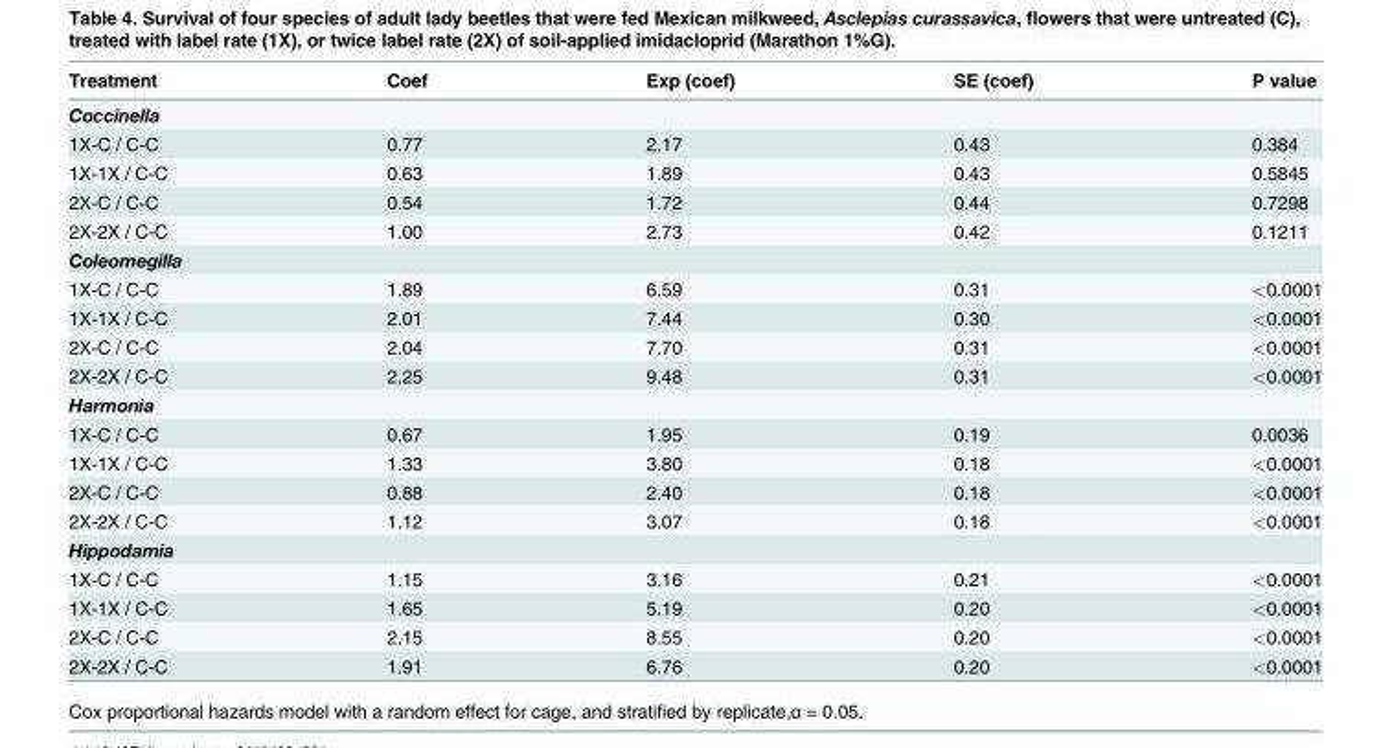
<table><thead><tr><td>Treatment</td><td>Coef</td><td>Exp (coef)</td><td>SE (coef)</td><td>P value</td></tr></thead><tbody><tr><td colspan="5">Coccinella</td></tr><tr><td>1X-C / C-C</td><td>0.77</td><td>2.17</td><td>0.43</td><td>0.384</td></tr><tr><td>1X-1X / C-C</td><td>0.63</td><td>1.89</td><td>0.43</td><td>0.5845</td></tr><tr><td>2X-C / C-C</td><td>0.54</td><td>1.72</td><td>0.44</td><td>0.7298</td></tr><tr><td>2X-2X / C-C</td><td>1.00</td><td>2.73</td><td>0.42</td><td>0.1211</td></tr><tr><td colspan="5">Coleomegilla</td></tr><tr><td>1X-C / C-C</td><td>1.89</td><td>6.59</td><td>0.31</td><td>&lt;0.0001</td></tr><tr><td>1X-1X / C-C</td><td>2.01</td><td>7.44</td><td>0.30</td><td>&lt;0.0001</td></tr><tr><td>2X-C / C-C</td><td>2.04</td><td>7.70</td><td>0.31</td><td>&lt;0.0001</td></tr><tr><td>2X-2X / C-C</td><td>2.25</td><td>9.48</td><td>0.31</td><td>&lt;0.0001</td></tr><tr><td colspan="5">Harmonia</td></tr><tr><td>1X-C / C-C</td><td>0.67</td><td>1.95</td><td>0.19</td><td>0.0036</td></tr><tr><td>1X-1X / C-C</td><td>1.33</td><td>3.80</td><td>0.18</td><td>&lt;0.0001</td></tr><tr><td>2X-C / C-C</td><td>0.88</td><td>2.40</td><td>0.18</td><td>&lt;0.0001</td></tr><tr><td>2X-2X / C-C</td><td>1.12</td><td>3.07</td><td>0.18</td><td>&lt;0.0001</td></tr><tr><td colspan="5">Hippodamia</td></tr><tr><td>1X-C / C-C</td><td>1.15</td><td>3.16</td><td>0.21</td><td>&lt;0.0001</td></tr><tr><td>1X-1X / C-C</td><td>1.65</td><td>5.19</td><td>0.20</td><td>&lt;0.0001</td></tr><tr><td>2X-C / C-C</td><td>2.15</td><td>8.55</td><td>0.20</td><td>&lt;0.0001</td></tr><tr><td>2X-2X / C-C</td><td>1.91</td><td>6.76</td><td>0.20</td><td>&lt;0.0001</td></tr></tbody></table>